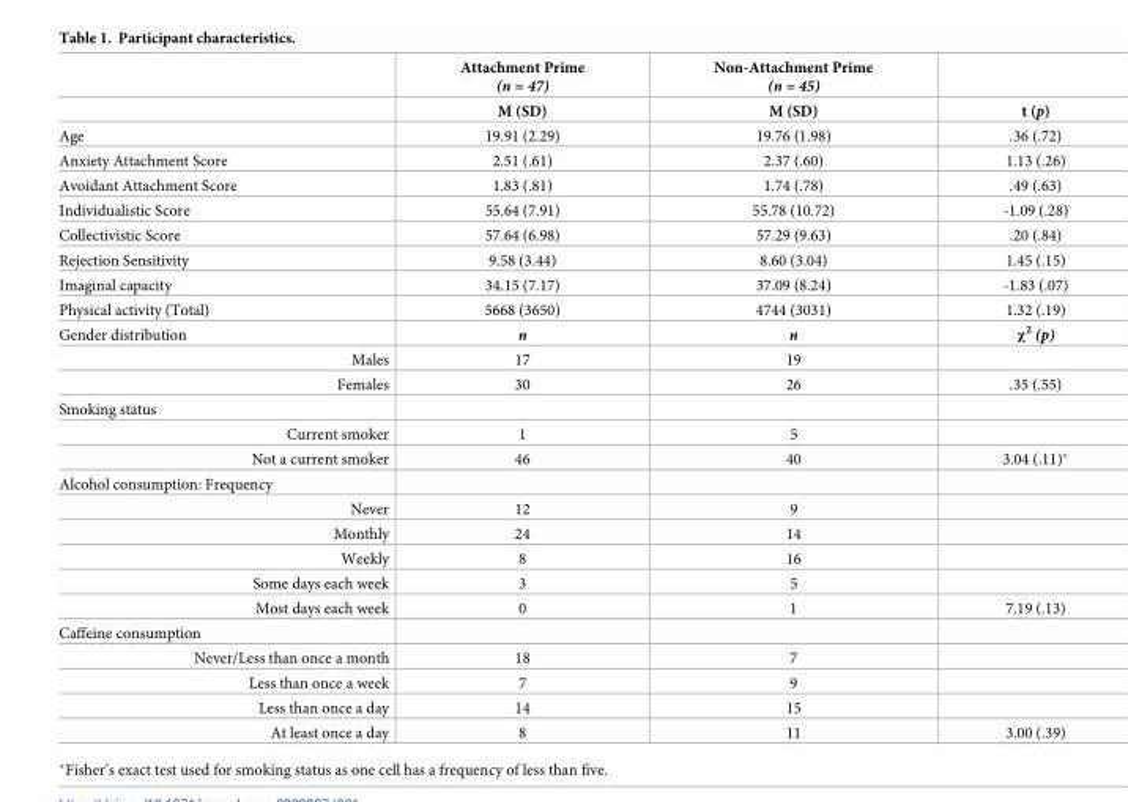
<table><thead><tr><td rowspan="2"></td><td rowspan="2">Attachment Prime (n = 47) M (SD)</td><td rowspan="2">Non-Attachment Prime (n = 45) M (SD)</td><td rowspan="2">t (p)</td></tr><tr></tr></thead><tbody><tr><td>Age</td><td>19.91 (2.29)</td><td>19.76 (1.98)</td><td>.36 (.72)</td></tr><tr><td>Anxiety Attachment Score</td><td>2.51 (.61)</td><td>2.37 (.60)</td><td>1.13 (.26)</td></tr><tr><td>Avoidant Attachment Score</td><td>1.83 (.81)</td><td>1.74 (.78)</td><td>.49 (.63)</td></tr><tr><td>Individualistic Score</td><td>55.64 (7.91)</td><td>55.78 (10.72)</td><td>-1.09 (.28)</td></tr><tr><td>Collectivistic Score</td><td>57.64 (6.98)</td><td>57.29 (9.63)</td><td>.20 (.84)</td></tr><tr><td>Rejection Sensitivity</td><td>9.58 (3.44)</td><td>8.60 (3.04)</td><td>1.45 (.15)</td></tr><tr><td>Imaginal capacity</td><td>34.15 (7.17)</td><td>37.09 (8.24)</td><td>-1.83 (.07)</td></tr><tr><td>Physical activity (Total)</td><td>5668 (3650)</td><td>4744 (3031)</td><td>1.32 (.19)</td></tr><tr><td>Gender distribution</td><td>n</td><td>n</td><td>χ<sup>2</sup> (p)</td></tr><tr><td>Males</td><td>17</td><td>19</td><td></td></tr><tr><td>Females</td><td>30</td><td>26</td><td>.35 (.55)</td></tr><tr><td colspan="4">Smoking status</td></tr><tr><td>Current smoker</td><td>1</td><td>5</td><td></td></tr><tr><td>Not a current smoker</td><td>46</td><td>40</td><td>3.04 (.11)*</td></tr><tr><td colspan="4">Alcohol consumption: Frequency</td></tr><tr><td>Never</td><td>12</td><td>9</td><td></td></tr><tr><td>Monthly</td><td>24</td><td>14</td><td></td></tr><tr><td>Weekly</td><td>8</td><td>16</td><td></td></tr><tr><td>Some days each week</td><td>3</td><td>5</td><td></td></tr><tr><td>Most days each week</td><td>0</td><td>1</td><td>7.19 (.13)</td></tr><tr><td colspan="4">Caffeine consumption</td></tr><tr><td>Never/Less than once a month</td><td>18</td><td>7</td><td></td></tr><tr><td>Less than once a week</td><td>7</td><td>9</td><td></td></tr><tr><td>Less than once a day</td><td>14</td><td>15</td><td></td></tr><tr><td>At least once a day</td><td>8</td><td>11</td><td>3.00 (.39)</td></tr></tbody></table>